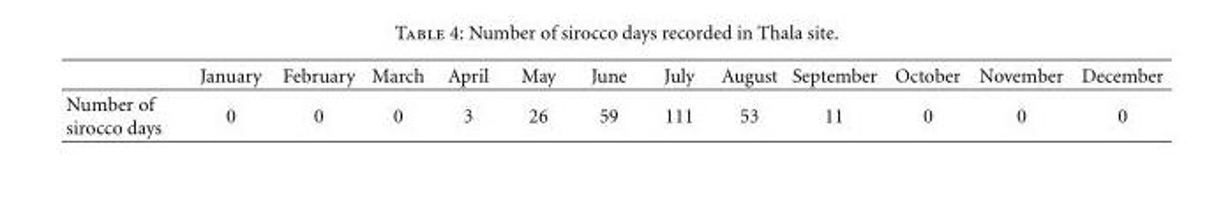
<table><thead><tr><td></td><td>January</td><td>February</td><td>March</td><td>April</td><td>May</td><td>June</td><td>July</td><td>August</td><td>September</td><td>October</td><td>November</td><td>December</td></tr></thead><tbody><tr><td>Number of sirocco days</td><td>0</td><td>0</td><td>0</td><td>3</td><td>26</td><td>59</td><td>111</td><td>53</td><td>11</td><td>0</td><td>0</td><td>0</td></tr></tbody></table>